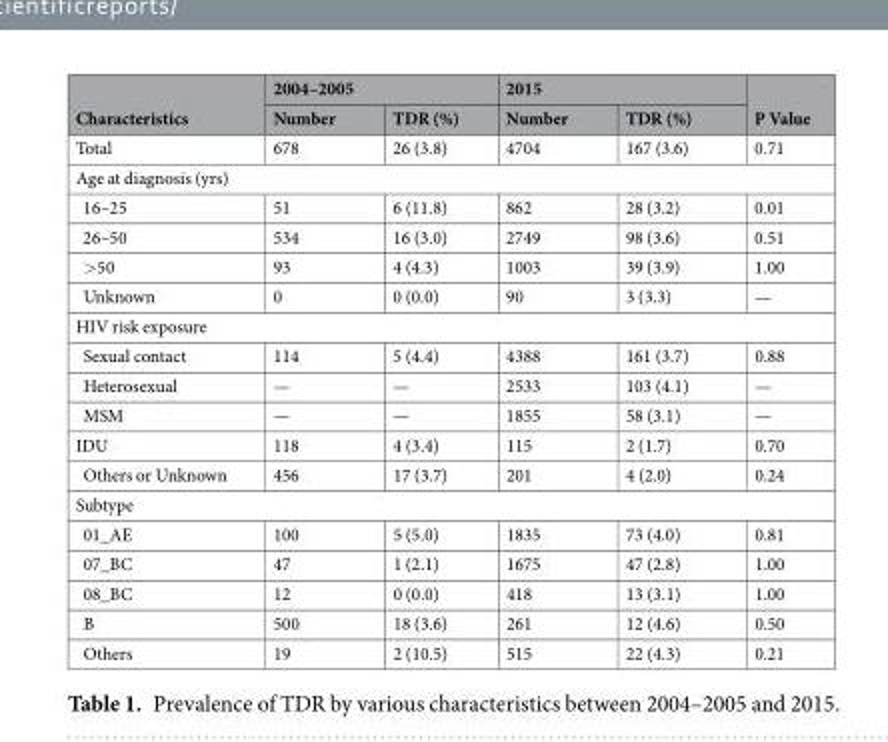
<table><thead><tr><td rowspan="2">Characteristics</td><td colspan="2">2004–2005</td><td colspan="2">2015</td><td rowspan="2">P Value</td></tr><tr><td>Number</td><td>TDR (%)</td><td>Number</td><td>TDR (%)</td></tr></thead><tbody><tr><td>Total</td><td>678</td><td>26 (3.8)</td><td>4704</td><td>167 (3.6)</td><td>0.71</td></tr><tr><td colspan="6">Age at diagnosis (yrs)</td></tr><tr><td>16–25</td><td>51</td><td>6 (11.8)</td><td>862</td><td>28 (3.2)</td><td>0.01</td></tr><tr><td>26–50</td><td>534</td><td>16 (3.0)</td><td>2749</td><td>98 (3.6)</td><td>0.51</td></tr><tr><td>&gt;50</td><td>93</td><td>4 (4.3)</td><td>1003</td><td>39 (3.9)</td><td>1.00</td></tr><tr><td>Unknown</td><td>0</td><td>0 (0.0)</td><td>90</td><td>3 (3.3)</td><td>—</td></tr><tr><td colspan="6">HIV risk exposure</td></tr><tr><td>Sexual contact</td><td>114</td><td>5 (4.4)</td><td>4388</td><td>161 (3.7)</td><td>0.88</td></tr><tr><td>Heterosexual</td><td>—</td><td>—</td><td>2533</td><td>103 (4.1)</td><td>—</td></tr><tr><td>MSM</td><td>—</td><td>—</td><td>1855</td><td>58 (3.1)</td><td>—</td></tr><tr><td>IDU</td><td>118</td><td>4 (3.4)</td><td>115</td><td>2 (1.7)</td><td>0.70</td></tr><tr><td>Others or Unknown</td><td>456</td><td>17 (3.7)</td><td>201</td><td>4 (2.0)</td><td>0.24</td></tr><tr><td colspan="6">Subtype</td></tr><tr><td>01_AE</td><td>100</td><td>5 (5.0)</td><td>1835</td><td>73 (4.0)</td><td>0.81</td></tr><tr><td>07_BC</td><td>47</td><td>1 (2.1)</td><td>1675</td><td>47 (2.8)</td><td>1.00</td></tr><tr><td>08_BC</td><td>12</td><td>0 (0.0)</td><td>418</td><td>13 (3.1)</td><td>1.00</td></tr><tr><td>B</td><td>500</td><td>18 (3.6)</td><td>261</td><td>12 (4.6)</td><td>0.50</td></tr><tr><td>Others</td><td>19</td><td>2 (10.5)</td><td>515</td><td>22 (4.3)</td><td>0.21</td></tr></tbody></table>